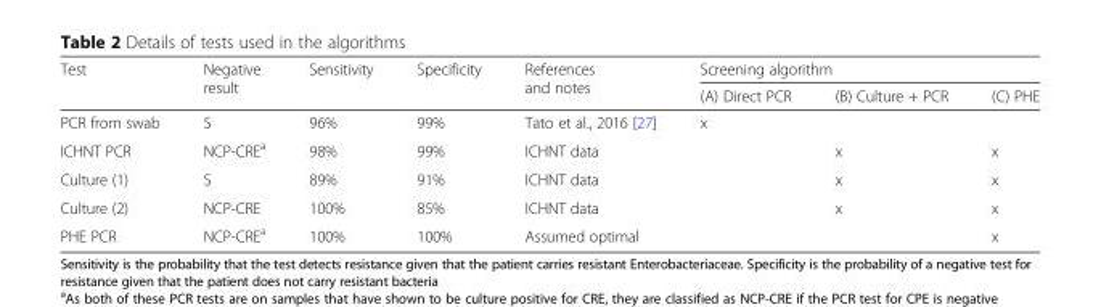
<table><thead><tr><td rowspan="2">Test</td><td rowspan="2">Negative result</td><td rowspan="2">Sensitivity</td><td rowspan="2">Specificity</td><td rowspan="2">References and notes</td><td colspan="3">Screening algorithm</td></tr><tr><td>(A) Direct PCR</td><td>(B) Culture + PCR</td><td>(C) PHE</td></tr></thead><tbody><tr><td>PCR from swab</td><td>S</td><td>96%</td><td>99%</td><td>Tato et al., 2016 [27]</td><td>x</td><td></td><td></td></tr><tr><td>ICHNT PCR</td><td>NCP-CRE<sup>a</sup></td><td>98%</td><td>99%</td><td>ICHNT data</td><td></td><td>x</td><td>x</td></tr><tr><td>Culture (1)</td><td>S</td><td>89%</td><td>91%</td><td>ICHNT data</td><td></td><td>x</td><td>x</td></tr><tr><td>Culture (2)</td><td>NCP-CRE</td><td>100%</td><td>85%</td><td>ICHNT data</td><td></td><td>x</td><td>x</td></tr><tr><td>PHE PCR</td><td>NCP-CRE<sup>a</sup></td><td>100%</td><td>100%</td><td>Assumed optimal</td><td></td><td></td><td>x</td></tr></tbody></table>